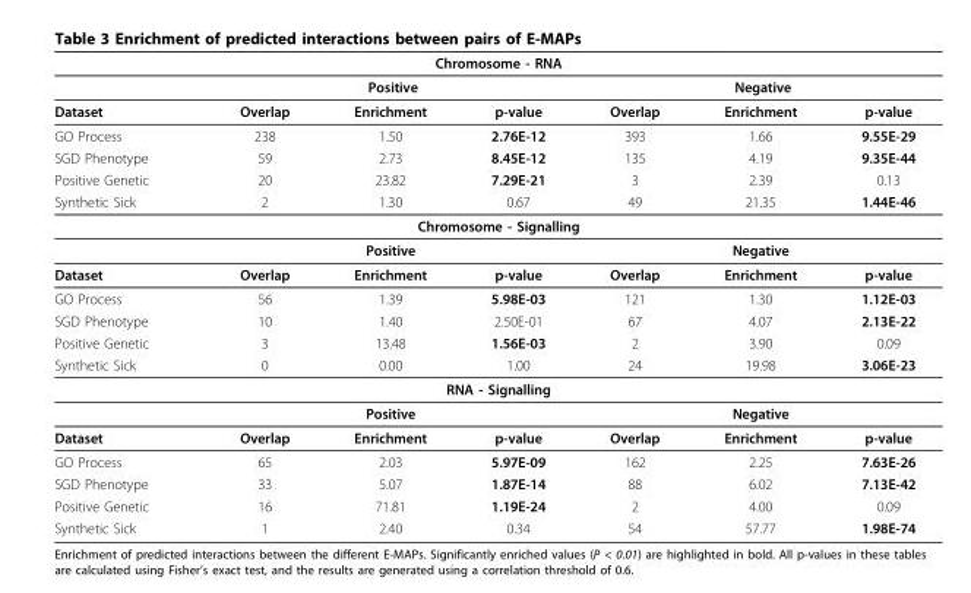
<table><thead><tr><td colspan="7">Chromosome - RNA</td></tr><tr><td rowspan="2">Dataset</td><td colspan="3">Positive</td><td colspan="3">Negative</td></tr><tr><td>Overlap</td><td>Enrichment</td><td>p-value</td><td>Overlap</td><td>Enrichment</td><td>p-value</td></tr></thead><tbody><tr><td>GO Process</td><td>238</td><td>1.50</td><td>2.76E-12</td><td>393</td><td>1.66</td><td>9.55E-29</td></tr><tr><td>SGD Phenotype</td><td>59</td><td>2.73</td><td>8.45E-12</td><td>135</td><td>4.19</td><td>9.35E-44</td></tr><tr><td>Positive Genetic</td><td>20</td><td>23.82</td><td>7.29E-21</td><td>3</td><td>2.39</td><td>0.13</td></tr><tr><td>Synthetic Sick</td><td>2</td><td>1.30</td><td>0.67</td><td>49</td><td>21.35</td><td>1.44E-46</td></tr><tr><td colspan="7">Chromosome - Signalling</td></tr><tr><td></td><td></td><td>Positive</td><td></td><td></td><td>Negative</td><td></td></tr><tr><td>Dataset</td><td>Overlap</td><td>Enrichment</td><td>p-value</td><td>Overlap</td><td>Enrichment</td><td>p-value</td></tr><tr><td>GO Process</td><td>56</td><td>1.39</td><td>5.98E-03</td><td>121</td><td>1.30</td><td>1.12E-03</td></tr><tr><td>SGD Phenotype</td><td>10</td><td>1.40</td><td>2.50E-01</td><td>67</td><td>4.07</td><td>2.13E-22</td></tr><tr><td>Positive Genetic</td><td>3</td><td>13.48</td><td>1.56E-03</td><td>2</td><td>3.90</td><td>0.09</td></tr><tr><td>Synthetic Sick</td><td>0</td><td>0.00</td><td>1.00</td><td>24</td><td>19.98</td><td>3.06E-23</td></tr><tr><td colspan="7">RNA - Signalling</td></tr><tr><td></td><td></td><td>Positive</td><td></td><td></td><td>Negative</td><td></td></tr><tr><td>Dataset</td><td>Overlap</td><td>Enrichment</td><td>p-value</td><td>Overlap</td><td>Enrichment</td><td>p-value</td></tr><tr><td>GO Process</td><td>65</td><td>2.03</td><td>5.97E-09</td><td>162</td><td>2.25</td><td>7.63E-26</td></tr><tr><td>SGD Phenotype</td><td>33</td><td>5.07</td><td>1.87E-14</td><td>88</td><td>6.02</td><td>7.13E-42</td></tr><tr><td>Positive Genetic</td><td>16</td><td>71.81</td><td>1.19E-24</td><td>2</td><td>4.00</td><td>0.09</td></tr><tr><td>Synthetic Sick</td><td>1</td><td>2.40</td><td>0.34</td><td>54</td><td>57.77</td><td>1.98E-74</td></tr></tbody></table>